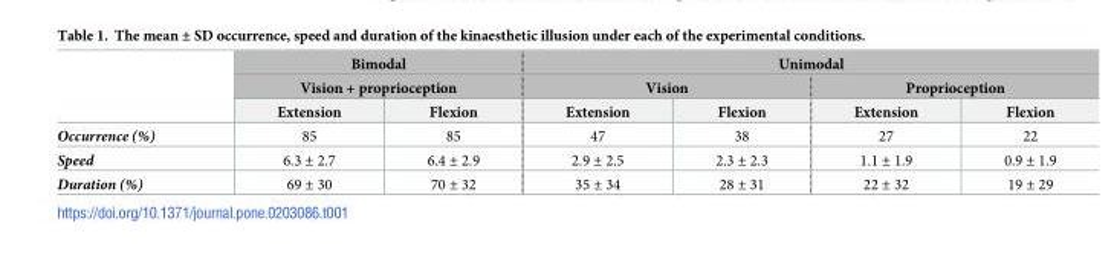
<table><thead><tr><td rowspan="3"></td><td rowspan="2" colspan="2">Bimodal Vision + proprioception</td><td colspan="4">Unimodal</td></tr><tr><td colspan="2">Vision</td><td colspan="2">Proprioception</td></tr><tr><td>Extension</td><td>Flexion</td><td>Extension</td><td>Flexion</td><td>Extension</td><td>Flexion</td></tr></thead><tbody><tr><td>Occurrence (%)</td><td>85</td><td>85</td><td>47</td><td>38</td><td>27</td><td>22</td></tr><tr><td>Speed</td><td>6.3 ± 2.7</td><td>6.4 ± 2.9</td><td>2.9 ± 2.5</td><td>2.3 ± 2.3</td><td>1.1 ± 1.9</td><td>0.9 ± 1.9</td></tr><tr><td>Duration (%)</td><td>69 ± 30</td><td>70 ± 32</td><td>35 ± 34</td><td>28 ± 31</td><td>22 ± 32</td><td>19 ± 29</td></tr></tbody></table>